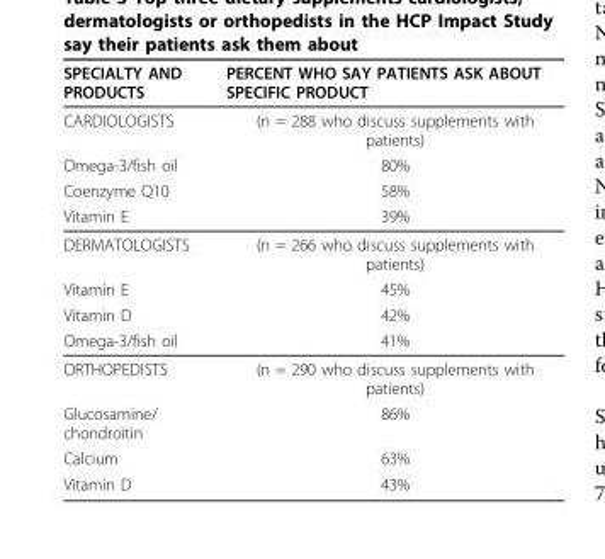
<table><thead><tr><td>SPECIALTY AND PRODUCTS</td><td>PERCENT WHO SAY PATIENTS ASK ABOUT SPECIFIC PRODUCT</td></tr></thead><tbody><tr><td>CARDIOLOGISTS</td><td>(n = 288 who discuss supplements with patients)</td></tr><tr><td>Omega-3/fish oil</td><td>80%</td></tr><tr><td>Coenzyme Q10</td><td>58%</td></tr><tr><td>Vitamin E</td><td>39%</td></tr><tr><td>DERMATOLOGISTS</td><td>(n = 266 who discuss supplements with patients)</td></tr><tr><td>Vitamin E</td><td>45%</td></tr><tr><td>Vitamin D</td><td>42%</td></tr><tr><td>Omega-3/fish oil</td><td>41%</td></tr><tr><td>ORTHOPEDISTS</td><td>(n = 290 who discuss supplements with patients)</td></tr><tr><td>Glucosamine/ chondroitin</td><td>86%</td></tr><tr><td>Calcium</td><td>63%</td></tr><tr><td>Vitamin D</td><td>43%</td></tr></tbody></table>